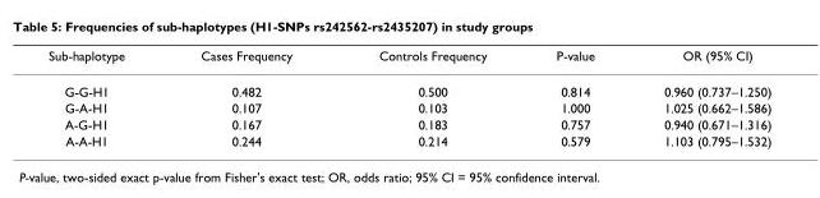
<table><thead><tr><td>Sub-haplotype</td><td>Cases Frequency</td><td>Controls Frequency</td><td>P-value</td><td>OR (95% CI)</td></tr></thead><tbody><tr><td>G-G-H1</td><td>0.482</td><td>0.500</td><td>0.814</td><td>0.960 (0.737–1.250)</td></tr><tr><td>G-A-H1</td><td>0.107</td><td>0.103</td><td>1.000</td><td>1.025 (0.662–1.586)</td></tr><tr><td>A-G-H1</td><td>0.167</td><td>0.183</td><td>0.757</td><td>0.940 (0.671–1.316)</td></tr><tr><td>A-A-H1</td><td>0.244</td><td>0.214</td><td>0.579</td><td>1.103 (0.795–1.532)</td></tr></tbody></table>